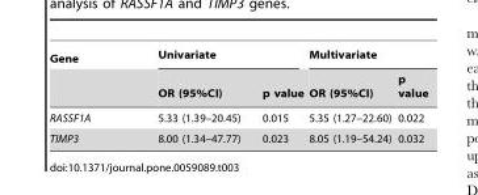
<table><thead><tr><td rowspan="2">Gene</td><td colspan="2">Univariate</td><td colspan="2">Multivariate</td></tr><tr><td>OR (95%CI)</td><td>p value</td><td>OR (95%CI)</td><td>p value</td></tr></thead><tbody><tr><td>RASSF1A</td><td>5.33 (1.39–20.45)</td><td>0.015</td><td>5.35 (1.27–22.60)</td><td>0.022</td></tr><tr><td>TIMP3</td><td>8.00 (1.34–47.77)</td><td>0.023</td><td>8.05 (1.19–54.24)</td><td>0.032</td></tr></tbody></table>